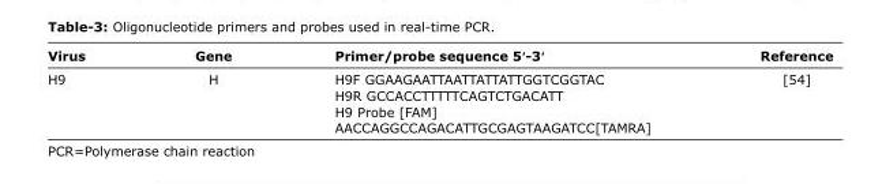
<table><thead><tr><td>Virus</td><td>Gene</td><td>Primer/probe sequence 5ʹ-3ʹ</td><td>Reference</td></tr></thead><tbody><tr><td rowspan="3">H9</td><td>H</td><td>H9F GGAAGAATTAATTATTATTGGTCGGTAC</td><td>[54]</td></tr><tr><td></td><td>H9R GCCACCTTTTTCAGTCTGACATT</td><td></td></tr><tr><td></td><td>H9 Probe [FAM] AACCAGGCCAGACATTGCGAGTAAGATCC[TAMRA]</td><td></td></tr></tbody></table>